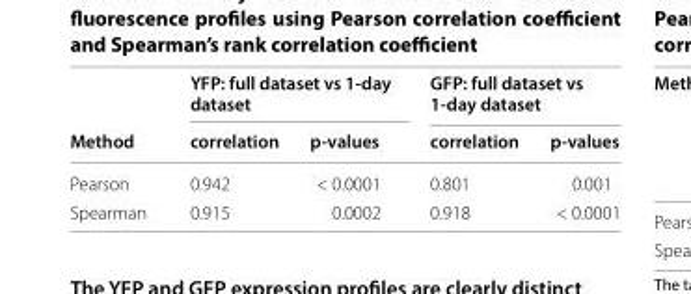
<table><thead><tr><td rowspan="2">Method</td><td colspan="2">YFP: full dataset vs 1‑day dataset</td><td colspan="2">GFP: full dataset vs 1‑day dataset</td></tr><tr><td>correlation</td><td>p‑values</td><td>correlation</td><td>p‑values</td></tr></thead><tbody><tr><td>Pearson</td><td>0.942</td><td>&lt; 0.0001</td><td>0.801</td><td>0.001</td></tr><tr><td>Spearman</td><td>0.915</td><td>0.0002</td><td>0.918</td><td>&lt; 0.0001</td></tr></tbody></table>